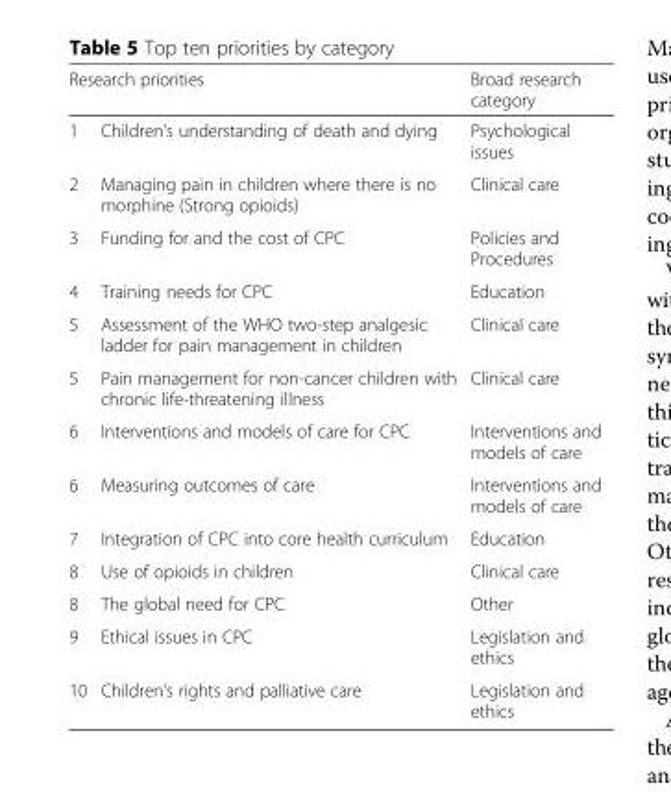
<table><thead><tr><td colspan="2">Research priorities</td><td rowspan="2">Broad research category Psychological issues</td></tr><tr><td>1</td><td>Children&#x27;s understanding of death and dying</td></tr></thead><tbody><tr><td>2</td><td>Managing pain in children where there is no morphine (Strong opioids)</td><td>Clinical care</td></tr><tr><td>3</td><td>Funding for and the cost of CPC</td><td>Policies and Procedures</td></tr><tr><td>4</td><td>Training needs for CPC</td><td>Education</td></tr><tr><td>5</td><td>Assessment of the WHO two-step analgesic ladder for pain management in children</td><td>Clinical care</td></tr><tr><td>5</td><td>Pain management for non-cancer children with chronic life-threatening illness</td><td>Clinical care</td></tr><tr><td>6</td><td>Interventions and models of care for CPC</td><td>Interventions and models of care</td></tr><tr><td>6</td><td>Measuring outcomes of care</td><td>Interventions and models of care</td></tr><tr><td>7</td><td>Integration of CPC into core health curriculum</td><td>Education</td></tr><tr><td>8</td><td>Use of opioids in children</td><td>Clinical care</td></tr><tr><td>8</td><td>The global need for CPC</td><td>Other</td></tr><tr><td>9</td><td>Ethical issues in CPC</td><td>Legislation and ethics</td></tr><tr><td>10</td><td>Children&#x27;s rights and palliative care</td><td>Legislation and ethics</td></tr></tbody></table>